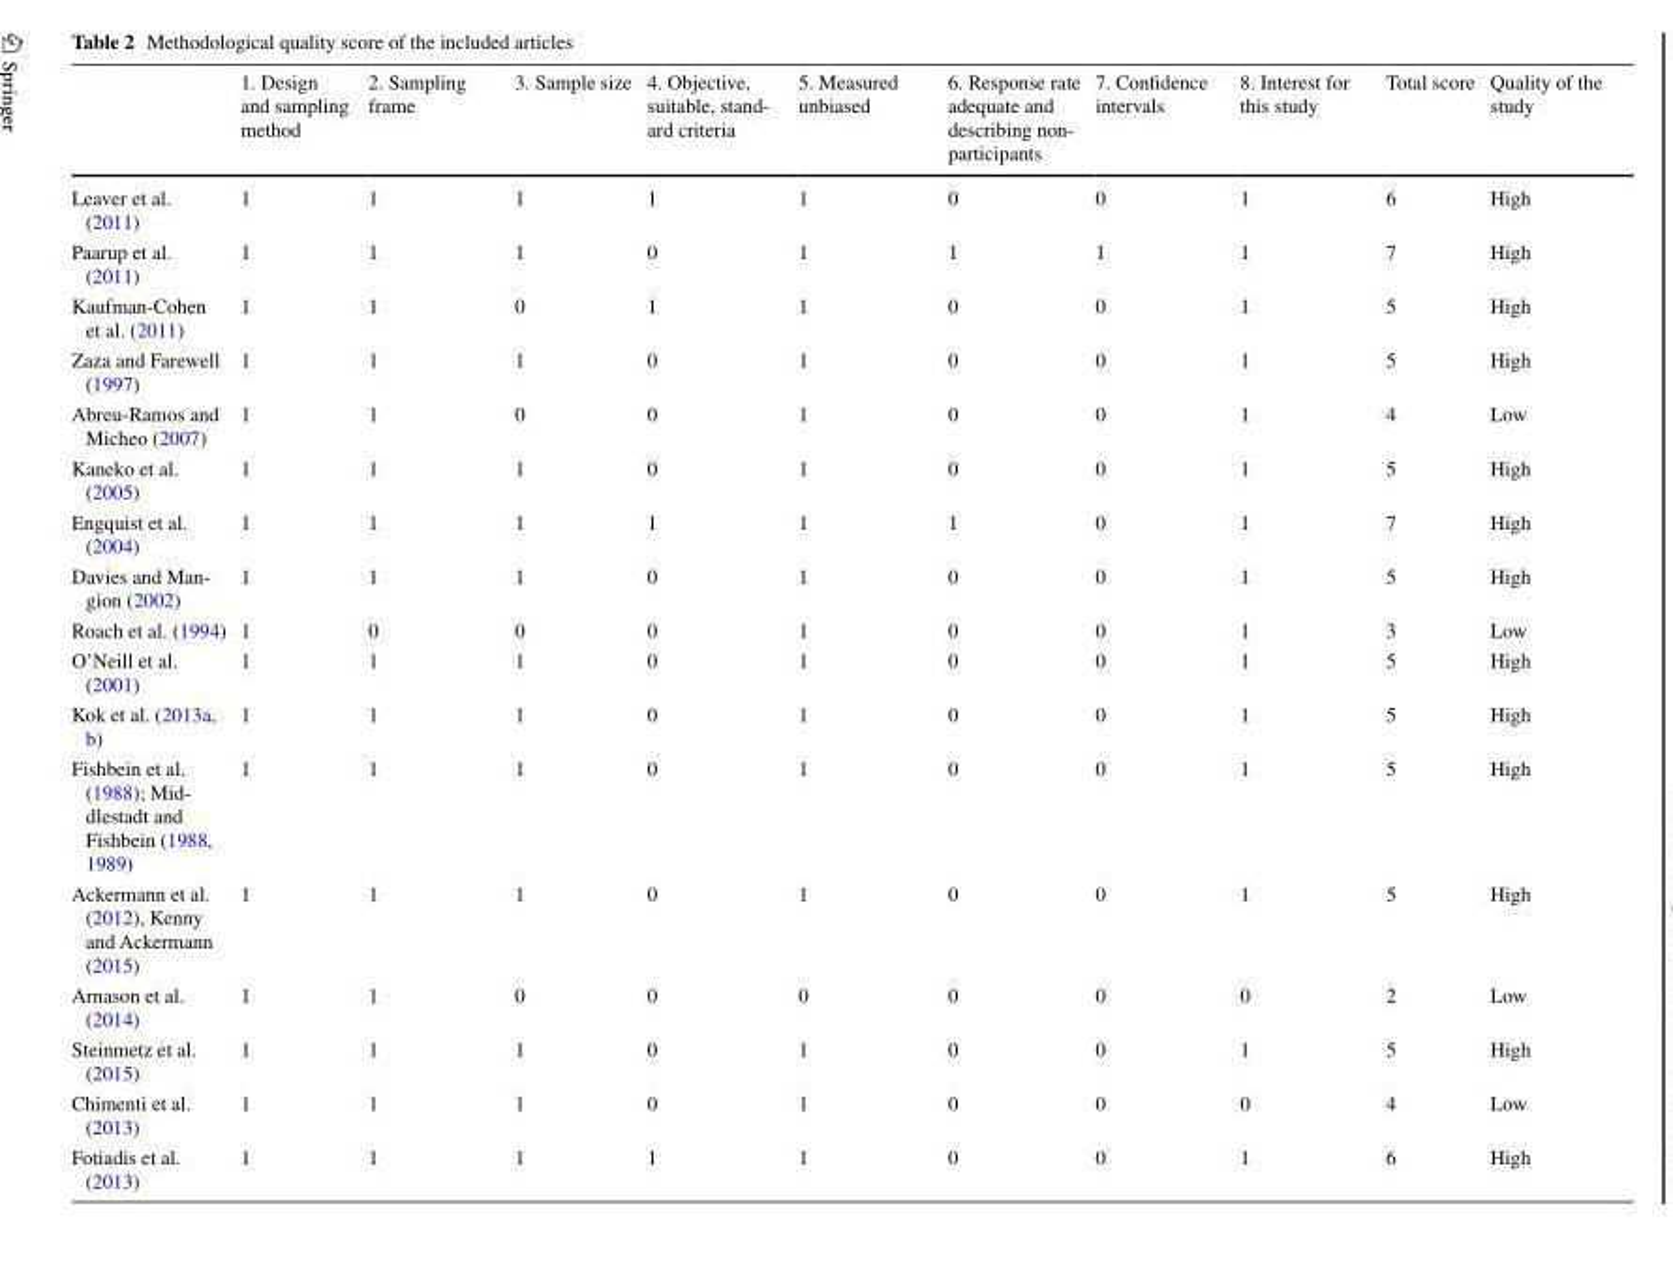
<table><thead><tr><td></td><td>1. Design and sampling method</td><td>2. Sampling frame</td><td>3. Sample size</td><td>4. Objective, suitable, stand- ard criteria</td><td>5. Measured unbiased</td><td>6. Response rate adequate and describing non- participants</td><td>7. Confidence intervals</td><td>8. Interest for this study</td><td>Total score</td><td>Quality of the study</td></tr></thead><tbody><tr><td>Leaver et al. (2011)</td><td>1</td><td>1</td><td>1</td><td>1</td><td>1</td><td>0</td><td>0</td><td>1</td><td>6</td><td>High</td></tr><tr><td>Paarup et al. (2011)</td><td>1</td><td>1</td><td>1</td><td>0</td><td>1</td><td>1</td><td>1</td><td>1</td><td>7</td><td>High</td></tr><tr><td>Kaufman-Cohen et al. (2011)</td><td>1</td><td>1</td><td>0</td><td>1</td><td>1</td><td>0</td><td>0</td><td>1</td><td>5</td><td>High</td></tr><tr><td>Zaza and Farewell (1997)</td><td>1</td><td>1</td><td>1</td><td>0</td><td>1</td><td>0</td><td>0</td><td>1</td><td>5</td><td>High</td></tr><tr><td>Abreu-Ramos and Micheo (2007)</td><td>1</td><td>1</td><td>0</td><td>0</td><td>1</td><td>0</td><td>0</td><td>1</td><td>4</td><td>Low</td></tr><tr><td>Kaneko et al. (2005)</td><td>1</td><td>1</td><td>1</td><td>0</td><td>1</td><td>0</td><td>0</td><td>1</td><td>5</td><td>High</td></tr><tr><td>Engquist et al. (2004)</td><td>1</td><td>1</td><td>1</td><td>1</td><td>1</td><td>1</td><td>0</td><td>1</td><td>7</td><td>High</td></tr><tr><td>Davies and Man- gion (2002)</td><td>1</td><td>1</td><td>1</td><td>0</td><td>1</td><td>0</td><td>0</td><td>1</td><td>5</td><td>High</td></tr><tr><td>Roach et al. (1994)</td><td>1</td><td>0</td><td>0</td><td>0</td><td>1</td><td>0</td><td>0</td><td>1</td><td>3</td><td>Low</td></tr><tr><td>O’Neill et al. (2001)</td><td>1</td><td>1</td><td>1</td><td>0</td><td>1</td><td>0</td><td>0</td><td>1</td><td>5</td><td>High</td></tr><tr><td>Kok et al. (2013a, b)</td><td>1</td><td>1</td><td>1</td><td>0</td><td>1</td><td>0</td><td>0</td><td>1</td><td>5</td><td>High</td></tr><tr><td>Fishbein et al. (1988); Mid- dlestadt and Fishbein (1988, 1989)</td><td>1</td><td>1</td><td>1</td><td>0</td><td>1</td><td>0</td><td>0</td><td>1</td><td>5</td><td>High</td></tr><tr><td>Ackermann et al. (2012), Kenny and Ackermann (2015)</td><td>1</td><td>1</td><td>1</td><td>0</td><td>1</td><td>0</td><td>0</td><td>1</td><td>5</td><td>High</td></tr><tr><td>Arnason et al. (2014)</td><td>1</td><td>1</td><td>0</td><td>0</td><td>0</td><td>0</td><td>0</td><td>0</td><td>2</td><td>Low</td></tr><tr><td>Steinmetz et al. (2015)</td><td>1</td><td>1</td><td>1</td><td>0</td><td>1</td><td>0</td><td>0</td><td>1</td><td>5</td><td>High</td></tr><tr><td>Chimenti et al. (2013)</td><td>1</td><td>1</td><td>1</td><td>0</td><td>1</td><td>0</td><td>0</td><td>0</td><td>4</td><td>Low</td></tr><tr><td>Fotiadis et al. (2013)</td><td>1</td><td>1</td><td>1</td><td>1</td><td>1</td><td>0</td><td>0</td><td>1</td><td>6</td><td>High</td></tr></tbody></table>